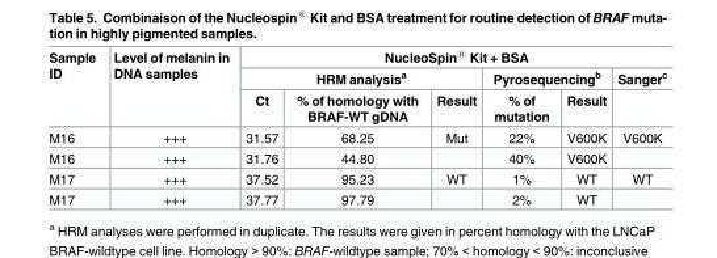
<table><thead><tr><td rowspan="3">Sample ID</td><td rowspan="3">Level of melanin in DNA samples</td><td colspan="6">NucleoSpin<sup>®</sup> Kit + BSA</td></tr><tr><td colspan="3">HRM analysis<sup>a</sup></td><td colspan="2">Pyrosequencing<sup>b</sup></td><td rowspan="2">Sanger<sup>c</sup></td></tr><tr><td>Ct</td><td>% of homology with BRAF-WT gDNA</td><td>Result</td><td>% of mutation</td><td>Result</td></tr></thead><tbody><tr><td>M16</td><td>+++</td><td>31.57</td><td>68.25</td><td>Mut</td><td>22%</td><td>V600K</td><td>V600K</td></tr><tr><td>M16</td><td>+++</td><td>31.76</td><td>44.80</td><td></td><td>40%</td><td>V600K</td><td></td></tr><tr><td>M17</td><td>+++</td><td>37.52</td><td>95.23</td><td>WT</td><td>1%</td><td>WT</td><td>WT</td></tr><tr><td>M17</td><td>+++</td><td>37.77</td><td>97.79</td><td></td><td>2%</td><td>WT</td><td></td></tr></tbody></table>